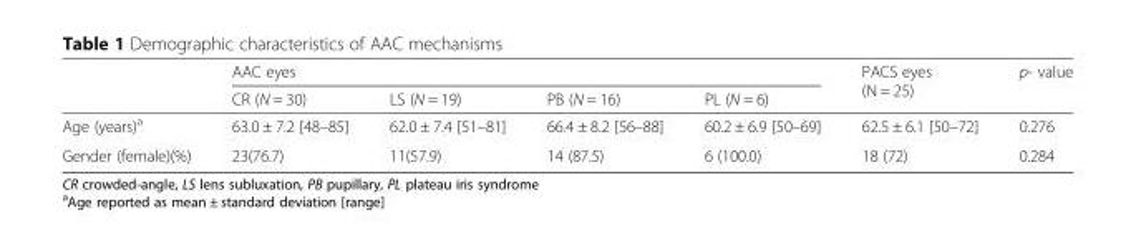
<table><thead><tr><td rowspan="2"></td><td colspan="4">AAC eyes</td><td rowspan="2">PACS eyes (N = 25)</td><td rowspan="2">p- value</td></tr><tr><td>CR (N = 30)</td><td>LS (N = 19)</td><td>PB (N = 16)</td><td>PL (N = 6)</td></tr></thead><tbody><tr><td>Age (years)<sup>a</sup></td><td>63.0 ± 7.2 [48–85]</td><td>62.0 ± 7.4 [51–81]</td><td>66.4 ± 8.2 [56–88]</td><td>60.2 ± 6.9 [50–69]</td><td>62.5 ± 6.1 [50–72]</td><td>0.276</td></tr><tr><td>Gender (female)(%)</td><td>23(76.7)</td><td>11(57.9)</td><td>14 (87.5)</td><td>6 (100.0)</td><td>18 (72)</td><td>0.284</td></tr></tbody></table>